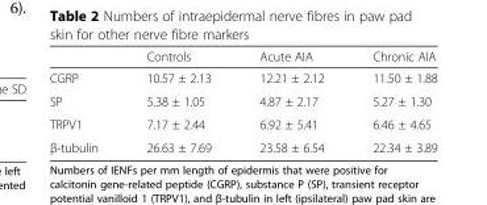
<table><thead><tr><td></td><td>Controls</td><td>Acute AIA</td><td>Chronic AIA</td></tr></thead><tbody><tr><td>CGRP</td><td>10.57 ± 2.13</td><td>12.21 ± 2.12</td><td>11.50 ± 1.88</td></tr><tr><td>SP</td><td>5.38 ± 1.05</td><td>4.87 ± 2.17</td><td>5.27 ± 1.30</td></tr><tr><td>TRPV1</td><td>7.17 ± 2.44</td><td>6.92 ± 5.41</td><td>6.46 ± 4.65</td></tr><tr><td>β-tubulin</td><td>26.63 ± 7.69</td><td>23.58 ± 6.54</td><td>22.34 ± 3.89</td></tr></tbody></table>